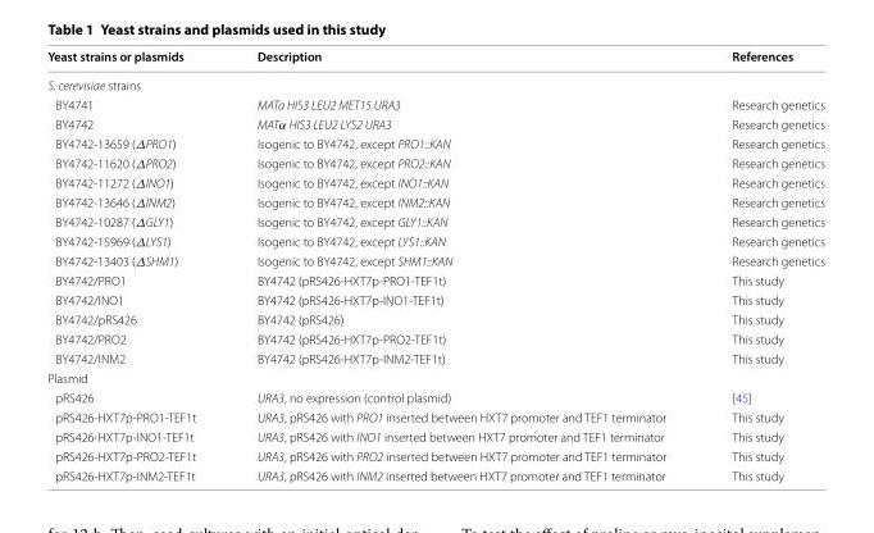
<table><thead><tr><td>Yeast strains or plasmids</td><td>Description</td><td>References</td></tr></thead><tbody><tr><td colspan="3">S. cerevisiae strains</td></tr><tr><td>BY4741</td><td>MATa HIS3 LEU2 MET15 URA3</td><td>Research genetics</td></tr><tr><td>BY4742</td><td>MATα HIS3 LEU2 LYS2 URA3</td><td>Research genetics</td></tr><tr><td>BY4742‑13659 (ΔPRO1)</td><td>Isogenic to BY4742, except PRO1::KAN</td><td>Research genetics</td></tr><tr><td>BY4742‑11620 (ΔPRO2)</td><td>Isogenic to BY4742, except PRO2::KAN</td><td>Research genetics</td></tr><tr><td>BY4742‑11272 (ΔINO1)</td><td>Isogenic to BY4742, except INO1::KAN</td><td>Research genetics</td></tr><tr><td>BY4742‑13646 (ΔINM2)</td><td>Isogenic to BY4742, except INM2::KAN</td><td>Research genetics</td></tr><tr><td>BY4742‑10287 (ΔGLY1)</td><td>Isogenic to BY4742, except GLY1::KAN</td><td>Research genetics</td></tr><tr><td>BY4742‑15969 (ΔLYS1)</td><td>Isogenic to BY4742, except LYS1::KAN</td><td>Research genetics</td></tr><tr><td>BY4742‑13403 (ΔSHM1)</td><td>Isogenic to BY4742, except SHM1::KAN</td><td>Research genetics</td></tr><tr><td>BY4742/PRO1</td><td>BY4742 (pRS426‑HXT7p‑PRO1‑TEF1t)</td><td>This study</td></tr><tr><td>BY4742/INO1</td><td>BY4742 (pRS426‑HXT7p‑INO1‑TEF1t)</td><td>This study</td></tr><tr><td>BY4742/pRS426</td><td>BY4742 (pRS426)</td><td>This study</td></tr><tr><td>BY4742/PRO2</td><td>BY4742 (pRS426‑HXT7p‑PRO2‑TEF1t)</td><td>This study</td></tr><tr><td>BY4742/INM2</td><td>BY4742 (pRS426‑HXT7p‑INM2‑TEF1t)</td><td>This study</td></tr><tr><td colspan="3">Plasmid</td></tr><tr><td>pRS426</td><td>URA3, no expression (control plasmid)</td><td>[45]</td></tr><tr><td>pRS426‑HXT7p‑PRO1‑TEF1t</td><td>URA3, pRS426 with PRO1 inserted between HXT7 promoter and TEF1 terminator</td><td>This study</td></tr><tr><td>pRS426‑HXT7p‑INO1‑TEF1t</td><td>URA3, pRS426 with INO1 inserted between HXT7 promoter and TEF1 terminator</td><td>This study</td></tr><tr><td>pRS426‑HXT7p‑PRO2‑TEF1t</td><td>URA3, pRS426 with PRO2 inserted between HXT7 promoter and TEF1 terminator</td><td>This study</td></tr><tr><td>pRS426‑HXT7p‑INM2‑TEF1t</td><td>URA3, pRS426 with INM2 inserted between HXT7 promoter and TEF1 terminator</td><td>This study</td></tr></tbody></table>